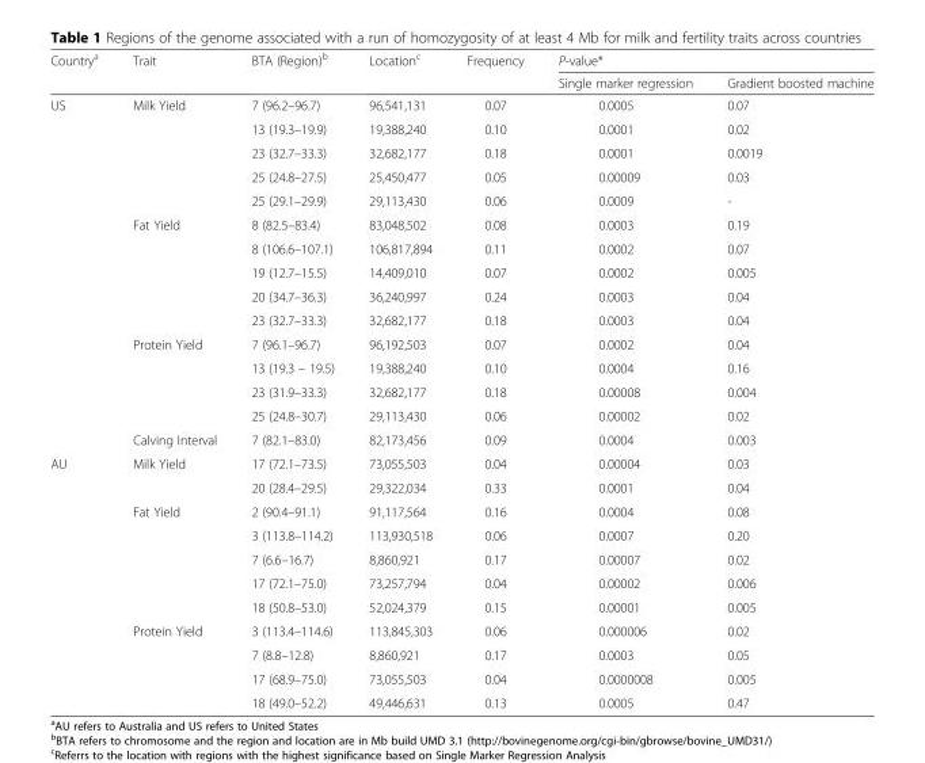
<table><thead><tr><td rowspan="2">Country<sup>a</sup></td><td rowspan="2">Trait</td><td rowspan="2">BTA (Region)<sup>b</sup></td><td rowspan="2">Location<sup>c</sup></td><td rowspan="2">Frequency</td><td colspan="2">P-value*</td></tr><tr><td>Single marker regression</td><td>Gradient boosted machine</td></tr></thead><tbody><tr><td rowspan="15">US</td><td rowspan="5">Milk Yield</td><td>7 (96.2–96.7)</td><td>96,541,131</td><td>0.07</td><td>0.0005</td><td>0.07</td></tr><tr><td>13 (19.3–19.9)</td><td>19,388,240</td><td>0.10</td><td>0.0001</td><td>0.02</td></tr><tr><td>23 (32.7–33.3)</td><td>32,682,177</td><td>0.18</td><td>0.0001</td><td>0.0019</td></tr><tr><td>25 (24.8–27.5)</td><td>25,450,477</td><td>0.05</td><td>0.00009</td><td>0.03</td></tr><tr><td>25 (29.1–29.9)</td><td>29,113,430</td><td>0.06</td><td>0.0009</td><td>-</td></tr><tr><td rowspan="5">Fat Yield</td><td>8 (82.5–83.4)</td><td>83,048,502</td><td>0.08</td><td>0.0003</td><td>0.19</td></tr><tr><td>8 (106.6–107.1)</td><td>106,817,894</td><td>0.11</td><td>0.0002</td><td>0.07</td></tr><tr><td>19 (12.7–15.5)</td><td>14,409,010</td><td>0.07</td><td>0.0002</td><td>0.005</td></tr><tr><td>20 (34.7–36.3)</td><td>36,240,997</td><td>0.24</td><td>0.0003</td><td>0.04</td></tr><tr><td>23 (32.7–33.3)</td><td>32,682,177</td><td>0.18</td><td>0.0003</td><td>0.04</td></tr><tr><td rowspan="4">Protein Yield</td><td>7 (96.1–96.7)</td><td>96,192,503</td><td>0.07</td><td>0.0002</td><td>0.04</td></tr><tr><td>13 (19.3 – 19.5)</td><td>19,388,240</td><td>0.10</td><td>0.0004</td><td>0.16</td></tr><tr><td>23 (31.9–33.3)</td><td>32,682,177</td><td>0.18</td><td>0.00008</td><td>0.004</td></tr><tr><td>25 (24.8–30.7)</td><td>29,113,430</td><td>0.06</td><td>0.00002</td><td>0.02</td></tr><tr><td>Calving Interval</td><td>7 (82.1–83.0)</td><td>82,173,456</td><td>0.09</td><td>0.0004</td><td>0.003</td></tr><tr><td rowspan="11">AU</td><td rowspan="2">Milk Yield</td><td>17 (72.1–73.5)</td><td>73,055,503</td><td>0.04</td><td>0.00004</td><td>0.03</td></tr><tr><td>20 (28.4–29.5)</td><td>29,322,034</td><td>0.33</td><td>0.0001</td><td>0.04</td></tr><tr><td rowspan="5">Fat Yield</td><td>2 (90.4–91.1)</td><td>91,117,564</td><td>0.16</td><td>0.0004</td><td>0.08</td></tr><tr><td>3 (113.8–114.2)</td><td>113,930,518</td><td>0.06</td><td>0.0007</td><td>0.20</td></tr><tr><td>7 (6.6–16.7)</td><td>8,860,921</td><td>0.17</td><td>0.00007</td><td>0.02</td></tr><tr><td>17 (72.1–75.0)</td><td>73,257,794</td><td>0.04</td><td>0.00002</td><td>0.006</td></tr><tr><td>18 (50.8–53.0)</td><td>52,024,379</td><td>0.15</td><td>0.00001</td><td>0.005</td></tr><tr><td rowspan="4">Protein Yield</td><td>3 (113.4–114.6)</td><td>113,845,303</td><td>0.06</td><td>0.000006</td><td>0.02</td></tr><tr><td>7 (8.8–12.8)</td><td>8,860,921</td><td>0.17</td><td>0.0003</td><td>0.05</td></tr><tr><td>17 (68.9–75.0)</td><td>73,055,503</td><td>0.04</td><td>0.0000008</td><td>0.005</td></tr><tr><td>18 (49.0–52.2)</td><td>49,446,631</td><td>0.13</td><td>0.0005</td><td>0.47</td></tr></tbody></table>